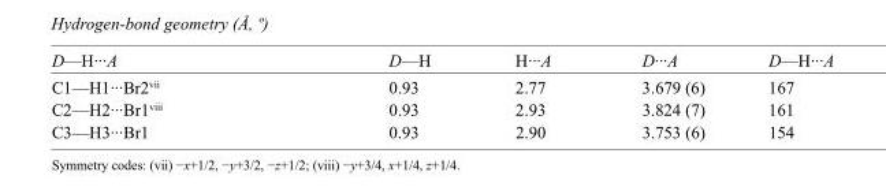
<table><tbody><tr><td>D—H···A</td><td>D—H</td><td>H···A</td><td>D···A</td><td>D—H···A</td></tr><tr><td>C1—H1···Br2<sup>vii</sup></td><td>0.93</td><td>2.77</td><td>3.679 (6)</td><td>167</td></tr><tr><td>C2—H2···Br1<sup>viii</sup></td><td>0.93</td><td>2.93</td><td>3.824 (7)</td><td>161</td></tr><tr><td>C3—H3···Br1</td><td>0.93</td><td>2.90</td><td>3.753 (6)</td><td>154</td></tr></tbody></table>